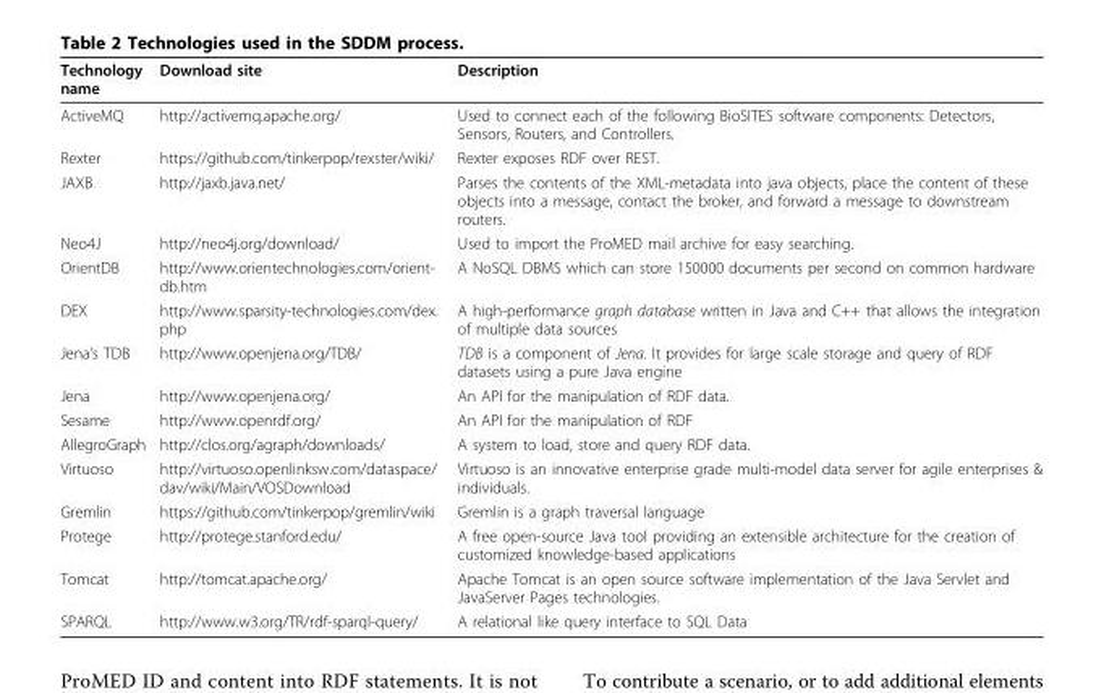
<table><thead><tr><td>Technology name</td><td>Download site</td><td>Description</td></tr></thead><tbody><tr><td>ActiveMQ</td><td>http://activemq.apache.org/</td><td>Used to connect each of the following BioSITES software components: Detectors, Sensors, Routers, and Controllers.</td></tr><tr><td>Rexter</td><td>https://github.com/tinkerpop/rexster/wiki/</td><td>Rexter exposes RDF over REST.</td></tr><tr><td>JAXB</td><td>http://jaxb.java.net/</td><td>Parses the contents of the XML-metadata into java objects, place the content of these objects into a message, contact the broker, and forward a message to downstream routers.</td></tr><tr><td>Neo4J</td><td>http://neo4j.org/download/</td><td>Used to import the ProMED mail archive for easy searching.</td></tr><tr><td>OrientDB</td><td>http://www.orientechnologies.com/orient- db.htm</td><td>A NoSQL DBMS which can store 150000 documents per second on common hardware</td></tr><tr><td>DEX</td><td>http://www.sparsity-technologies.com/dex. php</td><td>A high-performance graph database written in Java and C++ that allows the integration of multiple data sources</td></tr><tr><td>Jena’s TDB</td><td>http://www.openjena.org/TDB/</td><td>TDB is a component of Jena. It provides for large scale storage and query of RDF datasets using a pure Java engine</td></tr><tr><td>Jena</td><td>http://www.openjena.org/</td><td>An API for the manipulation of RDF data.</td></tr><tr><td>Sesame</td><td>http://www.openrdf.org/</td><td>An API for the manipulation of RDF</td></tr><tr><td>AllegroGraph</td><td>http://clos.org/agraph/downloads/</td><td>A system to load, store and query RDF data.</td></tr><tr><td>Virtuoso</td><td>http://virtuoso.openlinksw.com/dataspace/ dav/wiki/Main/VOSDownload</td><td>Virtuoso is an innovative enterprise grade multi-model data server for agile enterprises &amp; individuals.</td></tr><tr><td>Gremlin</td><td>https://github.com/tinkerpop/gremlin/wiki</td><td>Gremlin is a graph traversal language</td></tr><tr><td>Protege</td><td>http://protege.stanford.edu/</td><td>A free open-source Java tool providing an extensible architecture for the creation of customized knowledge-based applications</td></tr><tr><td>Tomcat</td><td>http://tomcat.apache.org/</td><td>Apache Tomcat is an open source software implementation of the Java Servlet and JavaServer Pages technologies.</td></tr><tr><td>SPARQL</td><td>http://www.w3.org/TR/rdf-sparql-query/</td><td>A relational like query interface to SQL Data</td></tr></tbody></table>